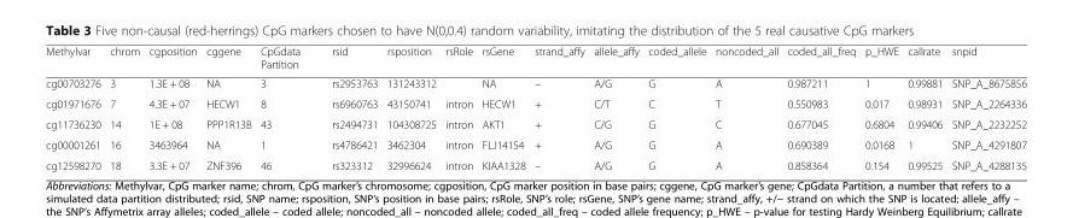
<table><thead><tr><td>Methylvar</td><td>chrom</td><td>cgposition</td><td>cggene</td><td>CpGdata Partition</td><td>rsid</td><td>rsposition</td><td>rsRole</td><td>rsGene</td><td>strand_affy</td><td>allele_affy</td><td>coded_allele</td><td>noncoded_all</td><td>coded_all_freq</td><td>p_HWE</td><td>callrate</td><td>snpid</td></tr></thead><tbody><tr><td>cg00703276</td><td>3</td><td>1.3E + 08</td><td>NA</td><td>3</td><td>rs2953763</td><td>131243312</td><td></td><td>NA</td><td>–</td><td>A/G</td><td>G</td><td>A</td><td>0.987211</td><td>1</td><td>0.99881</td><td>SNP_A_8675856</td></tr><tr><td>cg01971676</td><td>7</td><td>4.3E + 07</td><td>HECW1</td><td>8</td><td>rs6960763</td><td>43150741</td><td>intron</td><td>HECW1</td><td>+</td><td>C/T</td><td>C</td><td>T</td><td>0.550983</td><td>0.017</td><td>0.98931</td><td>SNP_A_2264336</td></tr><tr><td>cg11736230</td><td>14</td><td>1E + 08</td><td>PPP1R13B</td><td>43</td><td>rs2494731</td><td>104308725</td><td>intron</td><td>AKT1</td><td>+</td><td>C/G</td><td>G</td><td>C</td><td>0.677045</td><td>0.6804</td><td>0.99406</td><td>SNP_A_2232252</td></tr><tr><td>cg00001261</td><td>16</td><td>3463964</td><td>NA</td><td>1</td><td>rs4786421</td><td>3462304</td><td>intron</td><td>FLJ14154</td><td>+</td><td>A/G</td><td>G</td><td>A</td><td>0.690389</td><td>0.0168</td><td>1</td><td>SNP_A_4291807</td></tr><tr><td>cg12598270</td><td>18</td><td>3.3E + 07</td><td>ZNF396</td><td>46</td><td>rs323312</td><td>32996624</td><td>intron</td><td>KIAA1328</td><td>–</td><td>A/G</td><td>G</td><td>A</td><td>0.858364</td><td>0.154</td><td>0.99525</td><td>SNP_A_4288135</td></tr></tbody></table>